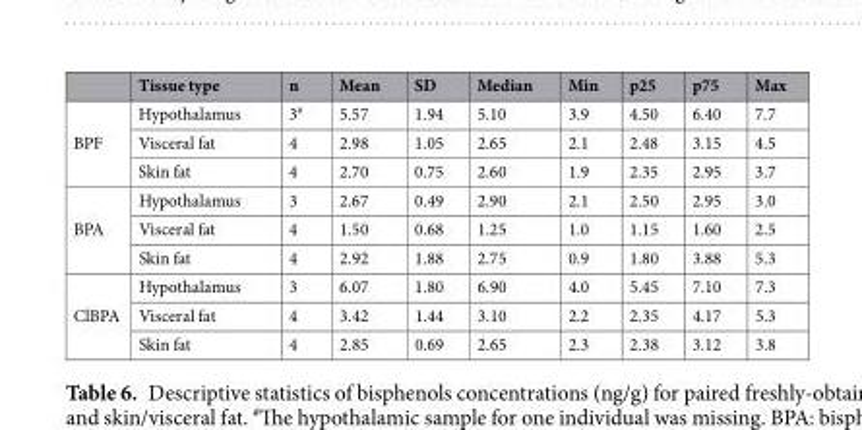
<table><thead><tr><td></td><td>Tissue type</td><td>n</td><td>Mean</td><td>SD</td><td>Median</td><td>Min</td><td>p25</td><td>p75</td><td>Max</td></tr></thead><tbody><tr><td rowspan="3">BPF</td><td>Hypothalamus</td><td>3<sup>#</sup></td><td>5.57</td><td>1.94</td><td>5.10</td><td>3.9</td><td>4.50</td><td>6.40</td><td>7.7</td></tr><tr><td>Visceral fat</td><td>4</td><td>2.98</td><td>1.05</td><td>2.65</td><td>2.1</td><td>2.48</td><td>3.15</td><td>4.5</td></tr><tr><td>Skin fat</td><td>4</td><td>2.70</td><td>0.75</td><td>2.60</td><td>1.9</td><td>2.35</td><td>2.95</td><td>3.7</td></tr><tr><td rowspan="3">BPA</td><td>Hypothalamus</td><td>3</td><td>2.67</td><td>0.49</td><td>2.90</td><td>2.1</td><td>2.50</td><td>2.95</td><td>3.0</td></tr><tr><td>Visceral fat</td><td>4</td><td>1.50</td><td>0.68</td><td>1.25</td><td>1.0</td><td>1.15</td><td>1.60</td><td>2.5</td></tr><tr><td>Skin fat</td><td>4</td><td>2.92</td><td>1.88</td><td>2.75</td><td>0.9</td><td>1.80</td><td>3.88</td><td>5.3</td></tr><tr><td rowspan="3">ClBPA</td><td>Hypothalamus</td><td>3</td><td>6.07</td><td>1.80</td><td>6.90</td><td>4.0</td><td>5.45</td><td>7.10</td><td>7.3</td></tr><tr><td>Visceral fat</td><td>4</td><td>3.42</td><td>1.44</td><td>3.10</td><td>2.2</td><td>2.35</td><td>4.17</td><td>5.3</td></tr><tr><td>Skin fat</td><td>4</td><td>2.85</td><td>0.69</td><td>2.65</td><td>2.3</td><td>2.38</td><td>3.12</td><td>3.8</td></tr></tbody></table>